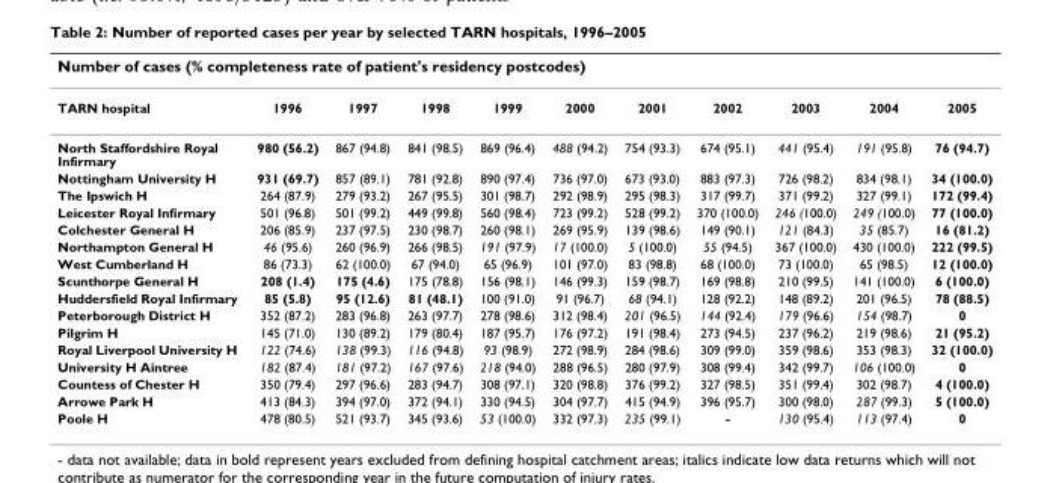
<table><thead><tr><td colspan="11">Number of cases (% completeness rate of patient&#x27;s residency postcodes)</td></tr><tr><td>TARN hospital</td><td>1996</td><td>1997</td><td>1998</td><td>1999</td><td>2000</td><td>2001</td><td>2002</td><td>2003</td><td>2004</td><td>2005</td></tr></thead><tbody><tr><td>North Staffordshire Royal Infirmary</td><td>980 (56.2)</td><td>867 (94.8)</td><td>841 (98.5)</td><td>869 (96.4)</td><td>488 (94.2)</td><td>754 (93.3)</td><td>674 (95.1)</td><td>441 (95.4)</td><td>191 (95.8)</td><td>76 (94.7)</td></tr><tr><td>Nottingham University H</td><td>931 (69.7)</td><td>857 (89.1)</td><td>781 (92.8)</td><td>890 (97.4)</td><td>736 (97.0)</td><td>673 (93.0)</td><td>883 (97.3)</td><td>726 (98.2)</td><td>834 (98.1)</td><td>34 (100.0)</td></tr><tr><td>The Ipswich H</td><td>264 (87.9)</td><td>279 (93.2)</td><td>267 (95.5)</td><td>301 (98.7)</td><td>292 (98.9)</td><td>295 (98.3)</td><td>317 (99.7)</td><td>371 (99.2)</td><td>327 (99.1)</td><td>172 (99.4)</td></tr><tr><td>Leicester Royal Infirmary</td><td>501 (96.8)</td><td>501 (99.2)</td><td>449 (99.8)</td><td>560 (98.4)</td><td>723 (99.2)</td><td>528 (99.2)</td><td>370 (100.0)</td><td>246 (100.0)</td><td>249 (100.0)</td><td>77 (100.0)</td></tr><tr><td>Colchester General H</td><td>206 (85.9)</td><td>237 (97.5)</td><td>230 (98.7)</td><td>260 (98.1)</td><td>269 (95.9)</td><td>139 (98.6)</td><td>149 (90.1)</td><td>121 (84.3)</td><td>35 (85.7)</td><td>16 (81.2)</td></tr><tr><td>Northampton General H</td><td>46 (95.6)</td><td>260 (96.9)</td><td>266 (98.5)</td><td>191 (97.9)</td><td>17 (100.0)</td><td>5 (100.0)</td><td>55 (94.5)</td><td>367 (100.0)</td><td>430 (100.0)</td><td>222 (99.5)</td></tr><tr><td>West Cumberland H</td><td>86 (73.3)</td><td>62 (100.0)</td><td>67 (94.0)</td><td>65 (96.9)</td><td>101 (97.0)</td><td>83 (98.8)</td><td>68 (100.0)</td><td>73 (100.0)</td><td>65 (98.5)</td><td>12 (100.0)</td></tr><tr><td>Scunthorpe General H</td><td>208 (1.4)</td><td>175 (4.6)</td><td>175 (78.8)</td><td>156 (98.1)</td><td>146 (99.3)</td><td>159 (98.7)</td><td>169 (98.8)</td><td>210 (99.5)</td><td>141 (100.0)</td><td>6 (100.0)</td></tr><tr><td>Huddersfield Royal Infirmary</td><td>85 (5.8)</td><td>95 (12.6)</td><td>81 (48.1)</td><td>100 (91.0)</td><td>91 (96.7)</td><td>68 (94.1)</td><td>128 (92.2)</td><td>148 (89.2)</td><td>201 (96.5)</td><td>78 (88.5)</td></tr><tr><td>Peterborough District H</td><td>352 (87.2)</td><td>283 (96.8)</td><td>263 (97.7)</td><td>278 (98.6)</td><td>312 (98.4)</td><td>201 (96.5)</td><td>144 (92.4)</td><td>179 (96.6)</td><td>154 (98.7)</td><td>0</td></tr><tr><td>Pilgrim H</td><td>145 (71.0)</td><td>130 (89.2)</td><td>179 (80.4)</td><td>187 (95.7)</td><td>176 (97.2)</td><td>191 (98.4)</td><td>273 (94.5)</td><td>237 (96.2)</td><td>219 (98.6)</td><td>21 (95.2)</td></tr><tr><td>Royal Liverpool University H</td><td>122 (74.6)</td><td>138 (99.3)</td><td>116 (94.8)</td><td>93 (98.9)</td><td>272 (98.9)</td><td>284 (98.6)</td><td>309 (99.0)</td><td>359 (98.6)</td><td>353 (98.3)</td><td>32 (100.0)</td></tr><tr><td>University H Aintree</td><td>182 (87.4)</td><td>181 (97.2)</td><td>167 (97.6)</td><td>218 (94.0)</td><td>288 (96.5)</td><td>280 (97.9)</td><td>308 (99.4)</td><td>342 (99.7)</td><td>106 (100.0)</td><td>0</td></tr><tr><td>Countess of Chester H</td><td>350 (79.4)</td><td>297 (96.6)</td><td>283 (94.7)</td><td>308 (97.1)</td><td>320 (98.8)</td><td>376 (99.2)</td><td>327 (98.5)</td><td>351 (99.4)</td><td>302 (98.7)</td><td>4 (100.0)</td></tr><tr><td>Arrowe Park H</td><td>413 (84.3)</td><td>394 (97.0)</td><td>372 (94.1)</td><td>330 (94.5)</td><td>304 (97.7)</td><td>415 (94.9)</td><td>396 (95.7)</td><td>300 (98.0)</td><td>287 (99.3)</td><td>5 (100.0)</td></tr><tr><td>Poole H</td><td>478 (80.5)</td><td>521 (93.7)</td><td>345 (93.6)</td><td>53 (100.0)</td><td>332 (97.3)</td><td>235 (99.1)</td><td>-</td><td>130 (95.4)</td><td>113 (97.4)</td><td>0</td></tr></tbody></table>